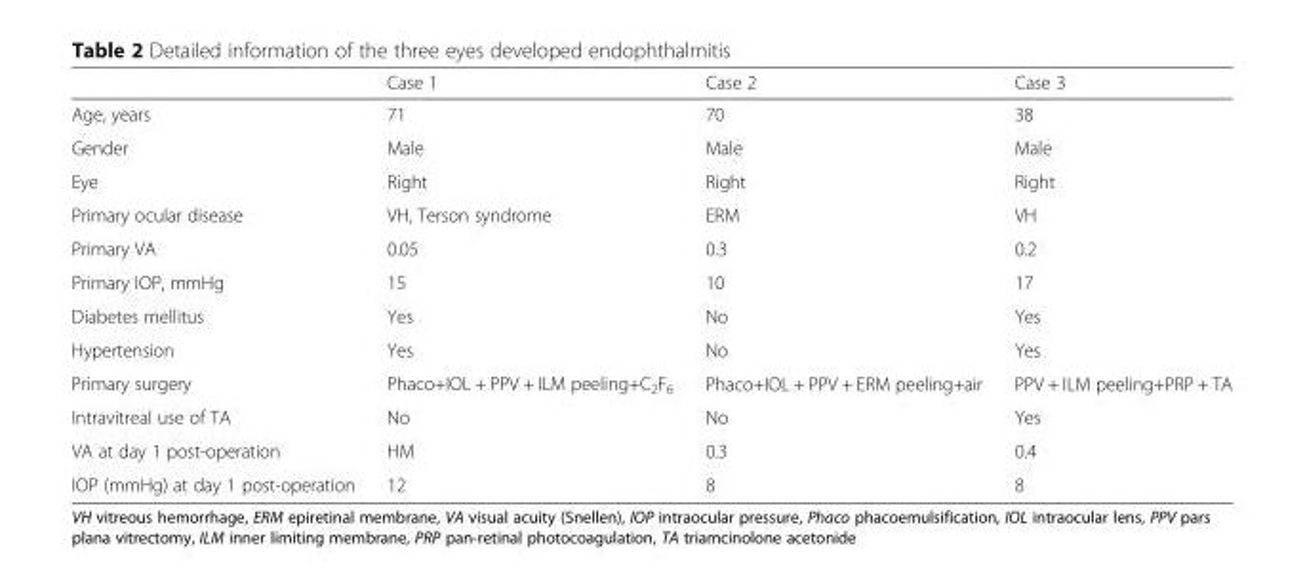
<table><thead><tr><td></td><td>Case 1</td><td>Case 2</td><td>Case 3</td></tr></thead><tbody><tr><td>Age, years</td><td>71</td><td>70</td><td>38</td></tr><tr><td>Gender</td><td>Male</td><td>Male</td><td>Male</td></tr><tr><td>Eye</td><td>Right</td><td>Right</td><td>Right</td></tr><tr><td>Primary ocular disease</td><td>VH, Terson syndrome</td><td>ERM</td><td>VH</td></tr><tr><td>Primary VA</td><td>0.05</td><td>0.3</td><td>0.2</td></tr><tr><td>Primary IOP, mmHg</td><td>15</td><td>10</td><td>17</td></tr><tr><td>Diabetes mellitus</td><td>Yes</td><td>No</td><td>Yes</td></tr><tr><td>Hypertension</td><td>Yes</td><td>No</td><td>Yes</td></tr><tr><td>Primary surgery</td><td>Phaco+IOL + PPV + ILM peeling+C<sub>2</sub>F<sub>6</sub></td><td>Phaco+IOL + PPV + ERM peeling+air</td><td>PPV + ILM peeling+PRP + TA</td></tr><tr><td>Intravitreal use of TA</td><td>No</td><td>No</td><td>Yes</td></tr><tr><td>VA at day 1 post-operation</td><td>HM</td><td>0.3</td><td>0.4</td></tr><tr><td>IOP (mmHg) at day 1 post-operation</td><td>12</td><td>8</td><td>8</td></tr></tbody></table>